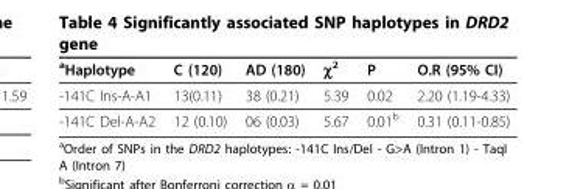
<table><thead><tr><td><sup>a</sup>Haplotype</td><td>C (120)</td><td>AD (180)</td><td>χ<sup>2</sup></td><td>P</td><td>O.R (95% CI)</td></tr></thead><tbody><tr><td>-141C Ins-A-A1</td><td>13(0.11)</td><td>38 (0.21)</td><td>5.39</td><td>0.02</td><td>2.20 (1.19-4.33)</td></tr><tr><td>-141C Del-A-A2</td><td>12 (0.10)</td><td>06 (0.03)</td><td>5.67</td><td>0.01<sup>b</sup></td><td>0.31 (0.11-0.85)</td></tr></tbody></table>